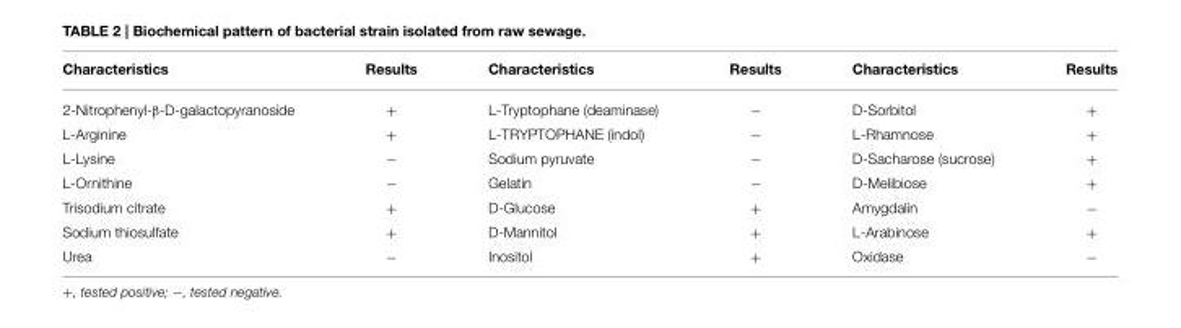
<table><thead><tr><td>Characteristics</td><td>Results</td><td>Characteristics</td><td>Results</td><td>Characteristics</td><td>Results</td></tr></thead><tbody><tr><td>2-Nitrophenyl-β-D-galactopyranoside</td><td>+</td><td>L-Tryptophane (deaminase)</td><td>−</td><td>D-Sorbitol</td><td>+</td></tr><tr><td>L-Arginine</td><td>+</td><td>L-TRYPTOPHANE (indol)</td><td>−</td><td>L-Rhamnose</td><td>+</td></tr><tr><td>L-Lysine</td><td>−</td><td>Sodium pyruvate</td><td>−</td><td>D-Sacharose (sucrose)</td><td>+</td></tr><tr><td>L-Ornithine</td><td>−</td><td>Gelatin</td><td>−</td><td>D-Melibiose</td><td>+</td></tr><tr><td>Trisodium citrate</td><td>+</td><td>D-Glucose</td><td>+</td><td>Amygdalin</td><td>−</td></tr><tr><td>Sodium thiosulfate</td><td>+</td><td>D-Mannitol</td><td>+</td><td>L-Arabinose</td><td>+</td></tr><tr><td>Urea</td><td>−</td><td>Inositol</td><td>+</td><td>Oxidase</td><td>−</td></tr></tbody></table>